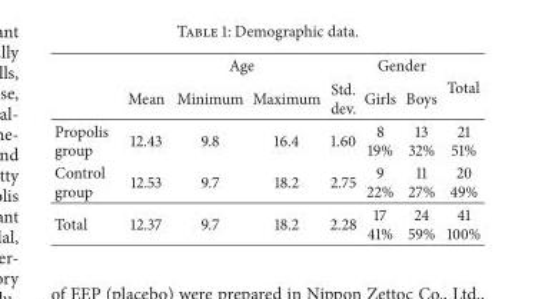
<table><thead><tr><td rowspan="2"></td><td colspan="4">Age</td><td colspan="2">Gender</td><td rowspan="2">Total</td></tr><tr><td>Mean</td><td>Minimum</td><td>Maximum</td><td>Std. dev.</td><td>Girls</td><td>Boys</td></tr></thead><tbody><tr><td>Propolis group</td><td>12.43</td><td>9.8</td><td>16.4</td><td>1.60</td><td>8 19%</td><td>13 32%</td><td>21 51%</td></tr><tr><td>Control group</td><td>12.53</td><td>9.7</td><td>18.2</td><td>2.75</td><td>9 22%</td><td>11 27%</td><td>20 49%</td></tr><tr><td>Total</td><td>12.37</td><td>9.7</td><td>18.2</td><td>2.28</td><td>17 41%</td><td>24 59%</td><td>41 100%</td></tr></tbody></table>